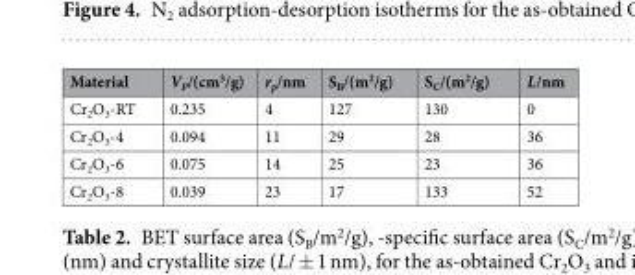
<table><thead><tr><td>Material</td><td>V<sub>P</sub>/(cm<sup>3</sup>/g)</td><td>r<sub>p</sub>/nm</td><td>S<sub>B</sub>/(m<sup>2</sup>/g)</td><td>S<sub>C</sub>/(m<sup>2</sup>/g)</td><td>L/nm</td></tr></thead><tbody><tr><td>Cr<sub>2</sub>O<sub>3</sub>-RT</td><td>0.235</td><td>4</td><td>127</td><td>130</td><td>0</td></tr><tr><td>Cr<sub>2</sub>O<sub>3</sub>-4</td><td>0.094</td><td>11</td><td>29</td><td>28</td><td>36</td></tr><tr><td>Cr<sub>2</sub>O<sub>3</sub>-6</td><td>0.075</td><td>14</td><td>25</td><td>23</td><td>36</td></tr><tr><td>Cr<sub>2</sub>O<sub>3</sub>-8</td><td>0.039</td><td>23</td><td>17</td><td>133</td><td>52</td></tr></tbody></table>